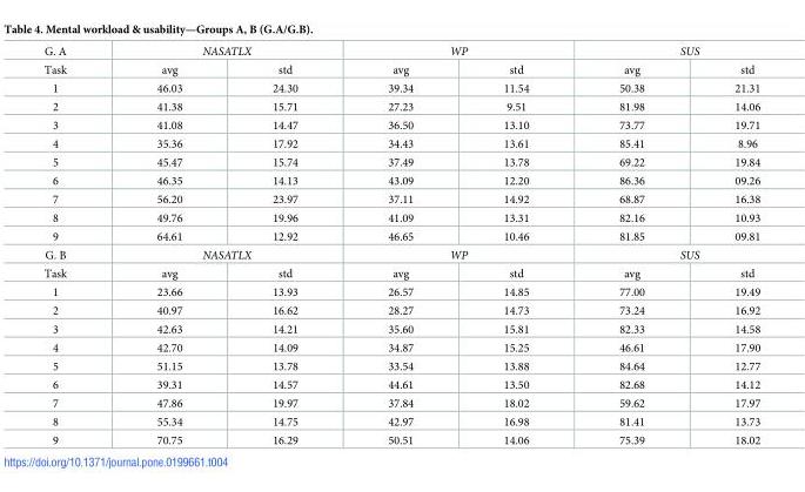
<table><tbody><tr><td>G. A</td><td colspan="2">NASATLX</td><td colspan="2">WP</td><td colspan="2">SUS</td></tr><tr><td>Task</td><td>avg</td><td>std</td><td>avg</td><td>std</td><td>avg</td><td>std</td></tr><tr><td>1</td><td>46.03</td><td>24.30</td><td>39.34</td><td>11.54</td><td>50.38</td><td>21.31</td></tr><tr><td>2</td><td>41.38</td><td>15.71</td><td>27.23</td><td>9.51</td><td>81.98</td><td>14.06</td></tr><tr><td>3</td><td>41.08</td><td>14.47</td><td>36.50</td><td>13.10</td><td>73.77</td><td>19.71</td></tr><tr><td>4</td><td>35.36</td><td>17.92</td><td>34.43</td><td>13.61</td><td>85.41</td><td>8.96</td></tr><tr><td>5</td><td>45.47</td><td>15.74</td><td>37.49</td><td>13.78</td><td>69.22</td><td>19.84</td></tr><tr><td>6</td><td>46.35</td><td>14.13</td><td>43.09</td><td>12.20</td><td>86.36</td><td>09.26</td></tr><tr><td>7</td><td>56.20</td><td>23.97</td><td>37.11</td><td>14.92</td><td>68.87</td><td>16.38</td></tr><tr><td>8</td><td>49.76</td><td>19.96</td><td>41.09</td><td>13.31</td><td>82.16</td><td>10.93</td></tr><tr><td>9</td><td>64.61</td><td>12.92</td><td>46.65</td><td>10.46</td><td>81.85</td><td>09.81</td></tr><tr><td>G. B</td><td colspan="2">NASATLX</td><td colspan="2">WP</td><td colspan="2">SUS</td></tr><tr><td>Task</td><td>avg</td><td>std</td><td>avg</td><td>std</td><td>avg</td><td>std</td></tr><tr><td>1</td><td>23.66</td><td>13.93</td><td>26.57</td><td>14.85</td><td>77.00</td><td>19.49</td></tr><tr><td>2</td><td>40.97</td><td>16.62</td><td>28.27</td><td>14.73</td><td>73.24</td><td>16.92</td></tr><tr><td>3</td><td>42.63</td><td>14.21</td><td>35.60</td><td>15.81</td><td>82.33</td><td>14.58</td></tr><tr><td>4</td><td>42.70</td><td>14.09</td><td>34.87</td><td>15.25</td><td>46.61</td><td>17.90</td></tr><tr><td>5</td><td>51.15</td><td>13.78</td><td>33.54</td><td>13.88</td><td>84.64</td><td>12.77</td></tr><tr><td>6</td><td>39.31</td><td>14.57</td><td>44.61</td><td>13.50</td><td>82.68</td><td>14.12</td></tr><tr><td>7</td><td>47.86</td><td>19.97</td><td>37.84</td><td>18.02</td><td>59.62</td><td>17.97</td></tr><tr><td>8</td><td>55.34</td><td>14.75</td><td>42.97</td><td>16.98</td><td>81.41</td><td>13.73</td></tr><tr><td>9</td><td>70.75</td><td>16.29</td><td>50.51</td><td>14.06</td><td>75.39</td><td>18.02</td></tr></tbody></table>